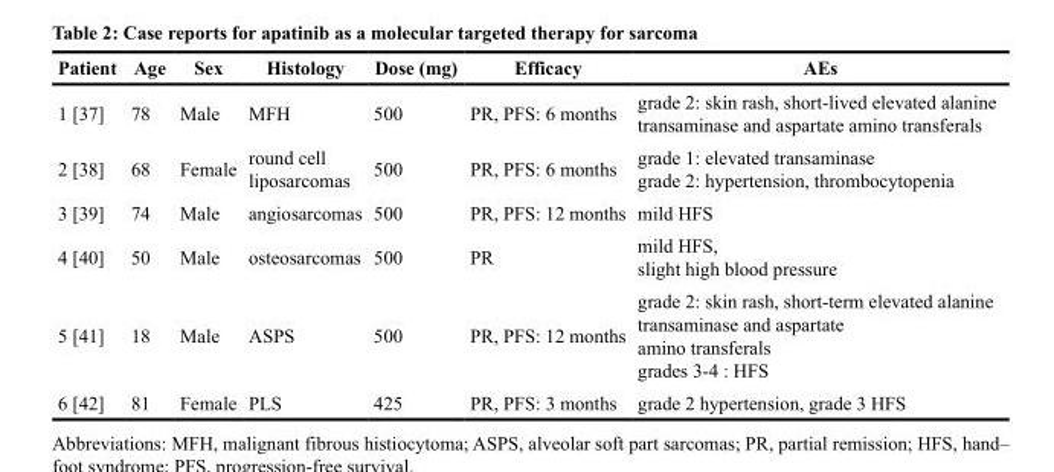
<table><thead><tr><td>Patient</td><td>Age</td><td>Sex</td><td>Histology</td><td>Dose (mg)</td><td>Efficacy</td><td>AEs</td></tr></thead><tbody><tr><td>1 [37]</td><td>78</td><td>Male</td><td>MFH</td><td>500</td><td>PR, PFS: 6 months</td><td>grade 2: skin rash, short-lived elevated alanine transaminase and aspartate amino transferals</td></tr><tr><td>2 [38]</td><td>68</td><td>Female</td><td>round cell liposarcomas</td><td>500</td><td>PR, PFS: 6 months</td><td>grade 1: elevated transaminase grade 2: hypertension, thrombocytopenia</td></tr><tr><td>3 [39]</td><td>74</td><td>Male</td><td>angiosarcomas</td><td>500</td><td>PR, PFS: 12 months</td><td>mild HFS</td></tr><tr><td>4 [40]</td><td>50</td><td>Male</td><td>osteosarcomas</td><td>500</td><td>PR</td><td>mild HFS, slight high blood pressure</td></tr><tr><td>5 [41]</td><td>18</td><td>Male</td><td>ASPS</td><td>500</td><td>PR, PFS: 12 months</td><td>grade 2: skin rash, short-term elevated alanine transaminase and aspartate amino transferals grades 3-4 : HFS</td></tr><tr><td>6 [42]</td><td>81</td><td>Female</td><td>PLS</td><td>425</td><td>PR, PFS: 3 months</td><td>grade 2 hypertension, grade 3 HFS</td></tr></tbody></table>